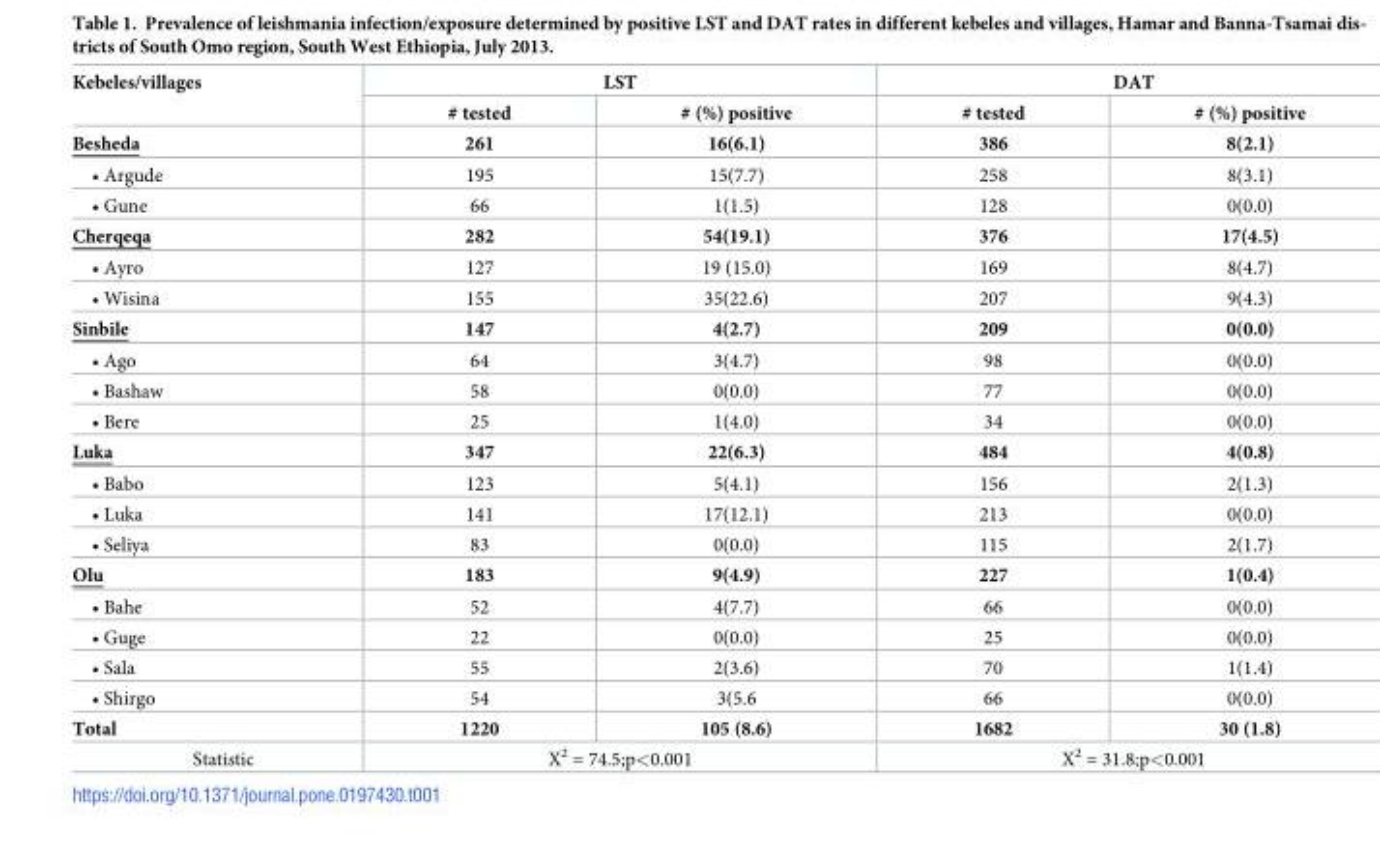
<table><thead><tr><td rowspan="2">Kebeles/villages</td><td colspan="2">LST</td><td colspan="2">DAT</td></tr><tr><td># tested</td><td># (%) positive</td><td># tested</td><td># (%) positive</td></tr></thead><tbody><tr><td>Besheda</td><td>261</td><td>16(6.1)</td><td>386</td><td>8(2.1)</td></tr><tr><td>• Argude</td><td>195</td><td>15(7.7)</td><td>258</td><td>8(3.1)</td></tr><tr><td>• Gune</td><td>66</td><td>1(1.5)</td><td>128</td><td>0(0.0)</td></tr><tr><td>Cherqeqa</td><td>282</td><td>54(19.1)</td><td>376</td><td>17(4.5)</td></tr><tr><td>• Ayro</td><td>127</td><td>19 (15.0)</td><td>169</td><td>8(4.7)</td></tr><tr><td>• Wisina</td><td>155</td><td>35(22.6)</td><td>207</td><td>9(4.3)</td></tr><tr><td>Sinbile</td><td>147</td><td>4(2.7)</td><td>209</td><td>0(0.0)</td></tr><tr><td>• Ago</td><td>64</td><td>3(4.7)</td><td>98</td><td>0(0.0)</td></tr><tr><td>• Bashaw</td><td>58</td><td>0(0.0)</td><td>77</td><td>0(0.0)</td></tr><tr><td>• Bere</td><td>25</td><td>1(4.0)</td><td>34</td><td>0(0.0)</td></tr><tr><td>Luka</td><td>347</td><td>22(6.3)</td><td>484</td><td>4(0.8)</td></tr><tr><td>• Babo</td><td>123</td><td>5(4.1)</td><td>156</td><td>2(1.3)</td></tr><tr><td>• Luka</td><td>141</td><td>17(12.1)</td><td>213</td><td>0(0.0)</td></tr><tr><td>• Seliya</td><td>83</td><td>0(0.0)</td><td>115</td><td>2(1.7)</td></tr><tr><td>Olu</td><td>183</td><td>9(4.9)</td><td>227</td><td>1(0.4)</td></tr><tr><td>• Bahe</td><td>52</td><td>4(7.7)</td><td>66</td><td>0(0.0)</td></tr><tr><td>• Guge</td><td>22</td><td>0(0.0)</td><td>25</td><td>0(0.0)</td></tr><tr><td>• Sala</td><td>55</td><td>2(3.6)</td><td>70</td><td>1(1.4)</td></tr><tr><td>• Shirgo</td><td>54</td><td>3(5.6</td><td>66</td><td>0(0.0)</td></tr><tr><td>Total</td><td>1220</td><td>105 (8.6)</td><td>1682</td><td>30 (1.8)</td></tr><tr><td>Statistic</td><td colspan="2">X<sup>2</sup> = 74.5;p&lt;0.001</td><td colspan="2">X<sup>2</sup> = 31.8;p&lt;0.001</td></tr></tbody></table>